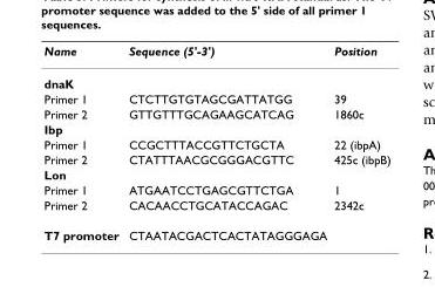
<table><thead><tr><td>Name</td><td>Sequence (5&#x27;-3&#x27;)</td><td>Position</td></tr></thead><tbody><tr><td colspan="3">dnaK</td></tr><tr><td>Primer 1</td><td>CTCTTGTGTAGCGATTATGG</td><td>39</td></tr><tr><td>Primer 2</td><td>GTTGTTTGCAGAAGCATCAG</td><td>1860c</td></tr><tr><td colspan="3">Ibp</td></tr><tr><td>Primer 1</td><td>CCGCTTTACCGTTCTGCTA</td><td>22 (ibpA)</td></tr><tr><td>Primer 2</td><td>CTATTTAACGCGGGACGTTC</td><td>425c (ibpB)</td></tr><tr><td colspan="3">Lon</td></tr><tr><td>Primer 1</td><td>ATGAATCCTGAGCGTTCTGA</td><td>1</td></tr><tr><td>Primer 2</td><td>CACAACCTGCATACCAGAC</td><td>2342c</td></tr><tr><td>T7 promoter</td><td>CTAATACGACTCACTATAGGGAGA</td><td></td></tr></tbody></table>